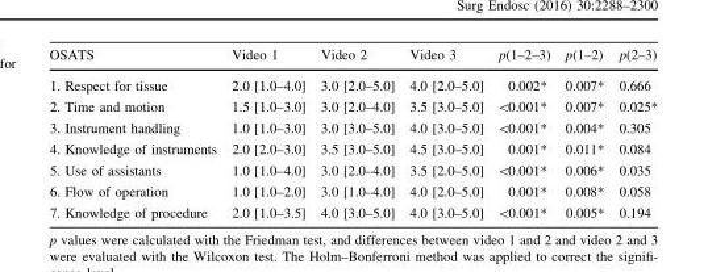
<table><thead><tr><td>OSATS</td><td>Video 1</td><td>Video 2</td><td>Video 3</td><td>p(1–2–3)</td><td>p(1–2)</td><td>p(2–3)</td></tr></thead><tbody><tr><td>1. Respect for tissue</td><td>2.0 [1.0–4.0]</td><td>3.0 [2.0–5.0]</td><td>4.0 [2.0–5.0]</td><td>0.002*</td><td>0.007*</td><td>0.666</td></tr><tr><td>2. Time and motion</td><td>1.5 [1.0–3.0]</td><td>3.0 [2.0–4.0]</td><td>3.5 [3.0–5.0]</td><td>&lt;0.001*</td><td>0.007*</td><td>0.025*</td></tr><tr><td>3. Instrument handling</td><td>1.0 [1.0–3.0]</td><td>3.0 [3.0–5.0]</td><td>4.0 [3.0–5.0]</td><td>&lt;0.001*</td><td>0.004*</td><td>0.305</td></tr><tr><td>4. Knowledge of instruments</td><td>2.0 [2.0–3.0]</td><td>3.5 [3.0–5.0]</td><td>4.5 [3.0–5.0]</td><td>0.001*</td><td>0.011*</td><td>0.084</td></tr><tr><td>5. Use of assistants</td><td>1.0 [1.0–4.0]</td><td>3.0 [2.0–4.0]</td><td>3.5 [2.0–5.0]</td><td>&lt;0.001*</td><td>0.006*</td><td>0.035</td></tr><tr><td>6. Flow of operation</td><td>1.0 [1.0–2.0]</td><td>3.0 [1.0–4.0]</td><td>4.0 [2.0–5.0]</td><td>0.001*</td><td>0.008*</td><td>0.058</td></tr><tr><td>7. Knowledge of procedure</td><td>2.0 [1.0–3.5]</td><td>4.0 [3.0–5.0]</td><td>4.0 [3.0–5.0]</td><td>&lt;0.001*</td><td>0.005*</td><td>0.194</td></tr></tbody></table>